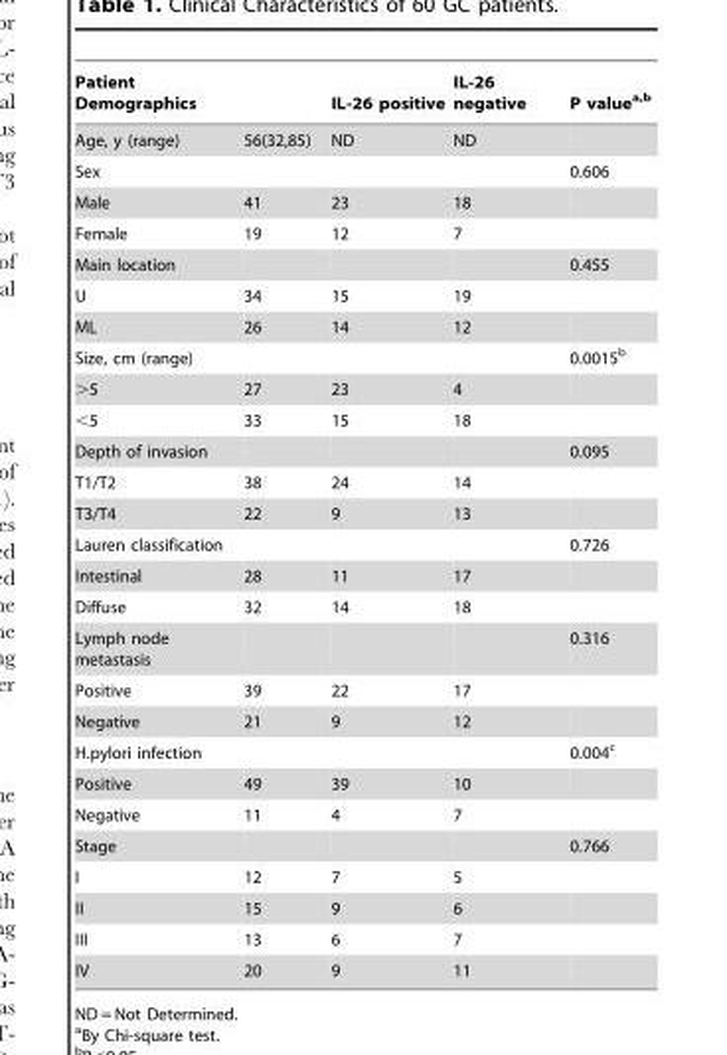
<table><thead><tr><td>Patient Demographics</td><td></td><td>IL-26 positive</td><td>IL-26 negative</td><td>P valuea,b</td></tr></thead><tbody><tr><td>Age, y (range)</td><td>56(32,85)</td><td>ND</td><td>ND</td><td></td></tr><tr><td>Sex</td><td></td><td></td><td></td><td>0.606</td></tr><tr><td>Male</td><td>41</td><td>23</td><td>18</td><td></td></tr><tr><td>Female</td><td>19</td><td>12</td><td>7</td><td></td></tr><tr><td>Main location</td><td></td><td></td><td></td><td>0.455</td></tr><tr><td>U</td><td>34</td><td>15</td><td>19</td><td></td></tr><tr><td>ML</td><td>26</td><td>14</td><td>12</td><td></td></tr><tr><td>Size, cm (range)</td><td></td><td></td><td></td><td>0.0015b</td></tr><tr><td>&gt;5</td><td>27</td><td>23</td><td>4</td><td></td></tr><tr><td>&lt;5</td><td>33</td><td>15</td><td>18</td><td></td></tr><tr><td>Depth of invasion</td><td></td><td></td><td></td><td>0.095</td></tr><tr><td>T1/T2</td><td>38</td><td>24</td><td>14</td><td></td></tr><tr><td>T3/T4</td><td>22</td><td>9</td><td>13</td><td></td></tr><tr><td>Lauren classification</td><td></td><td></td><td></td><td>0.726</td></tr><tr><td>Intestinal</td><td>28</td><td>11</td><td>17</td><td></td></tr><tr><td>Diffuse</td><td>32</td><td>14</td><td>18</td><td></td></tr><tr><td>Lymph node metastasis</td><td></td><td></td><td></td><td>0.316</td></tr><tr><td>Positive</td><td>39</td><td>22</td><td>17</td><td></td></tr><tr><td>Negative</td><td>21</td><td>9</td><td>12</td><td></td></tr><tr><td>H.pylori infection</td><td></td><td></td><td></td><td>0.004c</td></tr><tr><td>Positive</td><td>49</td><td>39</td><td>10</td><td></td></tr><tr><td>Negative</td><td>11</td><td>4</td><td>7</td><td></td></tr><tr><td>Stage</td><td></td><td></td><td></td><td>0.766</td></tr><tr><td>I</td><td>12</td><td>7</td><td>5</td><td></td></tr><tr><td>II</td><td>15</td><td>9</td><td>6</td><td></td></tr><tr><td>III</td><td>13</td><td>6</td><td>7</td><td></td></tr><tr><td>IV</td><td>20</td><td>9</td><td>11</td><td></td></tr></tbody></table>